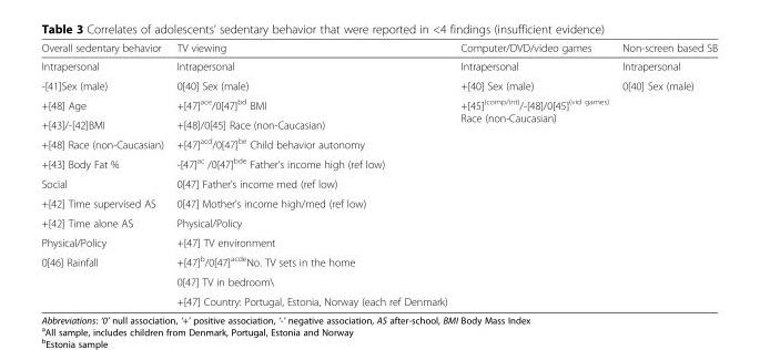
<table><thead><tr><td>Overall sedentary behavior</td><td>TV viewing</td><td>Computer/DVD/video games</td><td>Non-screen based SB</td></tr></thead><tbody><tr><td>Intrapersonal</td><td>Intrapersonal</td><td>Intrapersonal</td><td>Intrapersonal</td></tr><tr><td>-[41]Sex (male)</td><td>0[40] Sex (male)</td><td>+[40] Sex (male)</td><td rowspan="12">0[40] Sex (male)</td></tr><tr><td>+[48] Age</td><td>+[47]<sup>ace</sup>/0[47]<sup>bd</sup> BMI</td><td rowspan="11">+[45]<sup>(comp/int)</sup>/-[48]/0[45]<sup>(vid games)</sup> Race (non-Caucasian)</td></tr><tr><td>+[43]/-[42]BMI</td><td>+[48]/0[45] Race (non-Caucasian)</td></tr><tr><td>+[48] Race (non-Caucasian)</td><td>+[47]<sup>acd</sup>/0[47]<sup>be</sup> Child behavior autonomy</td></tr><tr><td>+[43] Body Fat %</td><td>-[47]<sup>ac</sup> /0[47]<sup>bde</sup> Father’s income high (ref low)</td></tr><tr><td>Social</td><td>0[47] Father’s income med (ref low)</td></tr><tr><td>+[42] Time supervised AS</td><td>0[47] Mother’s income high/med (ref low)</td></tr><tr><td>+[42] Time alone AS</td><td>Physical/Policy</td></tr><tr><td>Physical/Policy</td><td>+[47] TV environment</td></tr><tr><td rowspan="3">0[46] Rainfall</td><td>+[47]<sup>b</sup>/0[47]<sup>acde</sup>No. TV sets in the home</td></tr><tr><td>0[47] TV in bedroom\</td></tr><tr><td>+[47] Country: Portugal, Estonia, Norway (each ref Denmark)</td></tr></tbody></table>